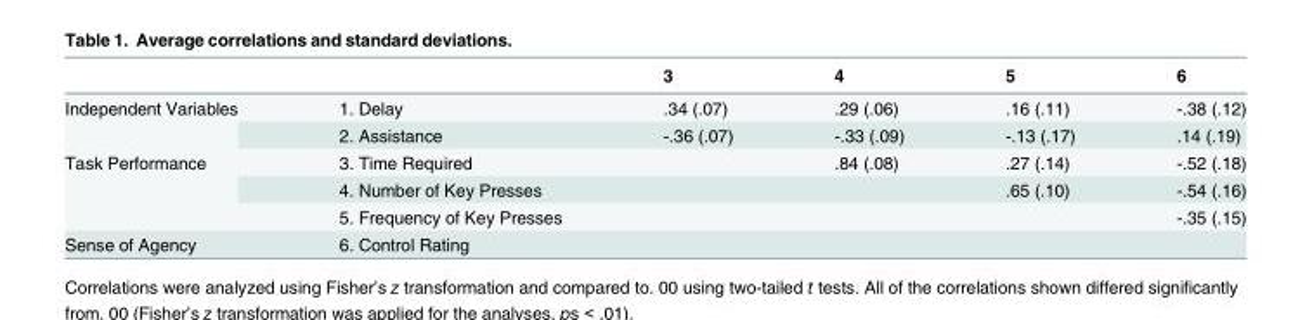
<table><thead><tr><td></td><td></td><td>3</td><td>4</td><td>5</td><td>6</td></tr></thead><tbody><tr><td rowspan="2">Independent Variables</td><td>1. Delay</td><td>.34 (.07)</td><td>.29 (.06)</td><td>.16 (.11)</td><td>-.38 (.12)</td></tr><tr><td>2. Assistance</td><td>-.36 (.07)</td><td>-.33 (.09)</td><td>-.13 (.17)</td><td>.14 (.19)</td></tr><tr><td rowspan="3">Task Performance</td><td>3. Time Required</td><td></td><td>.84 (.08)</td><td>.27 (.14)</td><td>-.52 (.18)</td></tr><tr><td>4. Number of Key Presses</td><td></td><td></td><td>.65 (.10)</td><td>-.54 (.16)</td></tr><tr><td>5. Frequency of Key Presses</td><td></td><td></td><td></td><td>-.35 (.15)</td></tr><tr><td>Sense of Agency</td><td>6. Control Rating</td><td></td><td></td><td></td><td></td></tr></tbody></table>